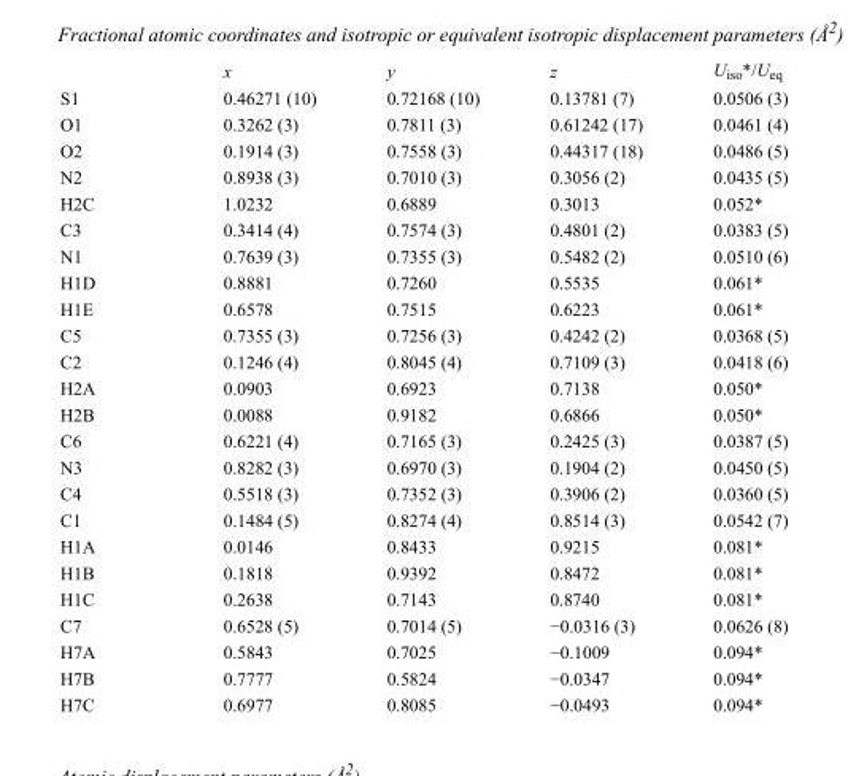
<table><thead><tr><td></td><td>x</td><td>y</td><td>z</td><td>U<sub>iso</sub>*/U<sub>eq</sub></td></tr></thead><tbody><tr><td>S1</td><td>0.46271 (10)</td><td>0.72168 (10)</td><td>0.13781 (7)</td><td>0.0506 (3)</td></tr><tr><td>O1</td><td>0.3262 (3)</td><td>0.7811 (3)</td><td>0.61242 (17)</td><td>0.0461 (4)</td></tr><tr><td>O2</td><td>0.1914 (3)</td><td>0.7558 (3)</td><td>0.44317 (18)</td><td>0.0486 (5)</td></tr><tr><td>N2</td><td>0.8938 (3)</td><td>0.7010 (3)</td><td>0.3056 (2)</td><td>0.0435 (5)</td></tr><tr><td>H2C</td><td>1.0232</td><td>0.6889</td><td>0.3013</td><td>0.052*</td></tr><tr><td>C3</td><td>0.3414 (4)</td><td>0.7574 (3)</td><td>0.4801 (2)</td><td>0.0383 (5)</td></tr><tr><td>N1</td><td>0.7639 (3)</td><td>0.7355 (3)</td><td>0.5482 (2)</td><td>0.0510 (6)</td></tr><tr><td>H1D</td><td>0.8881</td><td>0.7260</td><td>0.5535</td><td>0.061*</td></tr><tr><td>H1E</td><td>0.6578</td><td>0.7515</td><td>0.6223</td><td>0.061*</td></tr><tr><td>C5</td><td>0.7355 (3)</td><td>0.7256 (3)</td><td>0.4242 (2)</td><td>0.0368 (5)</td></tr><tr><td>C2</td><td>0.1246 (4)</td><td>0.8045 (4)</td><td>0.7109 (3)</td><td>0.0418 (6)</td></tr><tr><td>H2A</td><td>0.0903</td><td>0.6923</td><td>0.7138</td><td>0.050*</td></tr><tr><td>H2B</td><td>0.0088</td><td>0.9182</td><td>0.6866</td><td>0.050*</td></tr><tr><td>C6</td><td>0.6221 (4)</td><td>0.7165 (3)</td><td>0.2425 (3)</td><td>0.0387 (5)</td></tr><tr><td>N3</td><td>0.8282 (3)</td><td>0.6970 (3)</td><td>0.1904 (2)</td><td>0.0450 (5)</td></tr><tr><td>C4</td><td>0.5518 (3)</td><td>0.7352 (3)</td><td>0.3906 (2)</td><td>0.0360 (5)</td></tr><tr><td>C1</td><td>0.1484 (5)</td><td>0.8274 (4)</td><td>0.8514 (3)</td><td>0.0542 (7)</td></tr><tr><td>H1A</td><td>0.0146</td><td>0.8433</td><td>0.9215</td><td>0.081*</td></tr><tr><td>H1B</td><td>0.1818</td><td>0.9392</td><td>0.8472</td><td>0.081*</td></tr><tr><td>H1C</td><td>0.2638</td><td>0.7143</td><td>0.8740</td><td>0.081*</td></tr><tr><td>C7</td><td>0.6528 (5)</td><td>0.7014 (5)</td><td>−0.0316 (3)</td><td>0.0626 (8)</td></tr><tr><td>H7A</td><td>0.5843</td><td>0.7025</td><td>−0.1009</td><td>0.094*</td></tr><tr><td>H7B</td><td>0.7777</td><td>0.5824</td><td>−0.0347</td><td>0.094*</td></tr><tr><td>H7C</td><td>0.6977</td><td>0.8085</td><td>−0.0493</td><td>0.094*</td></tr></tbody></table>